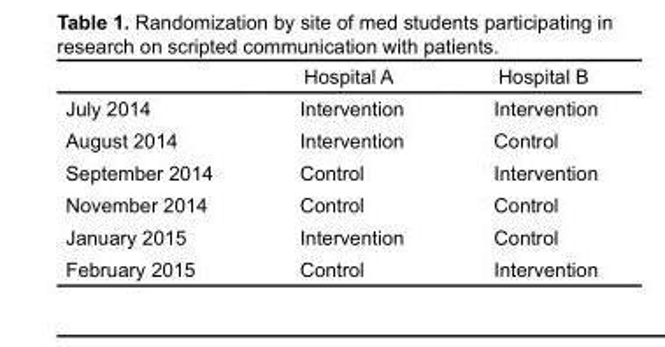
<table><thead><tr><td></td><td>Hospital A</td><td>Hospital B</td></tr></thead><tbody><tr><td>July 2014</td><td>Intervention</td><td>Intervention</td></tr><tr><td>August 2014</td><td>Intervention</td><td>Control</td></tr><tr><td>September 2014</td><td>Control</td><td>Intervention</td></tr><tr><td>November 2014</td><td>Control</td><td>Control</td></tr><tr><td>January 2015</td><td>Intervention</td><td>Control</td></tr><tr><td>February 2015</td><td>Control</td><td>Intervention</td></tr></tbody></table>